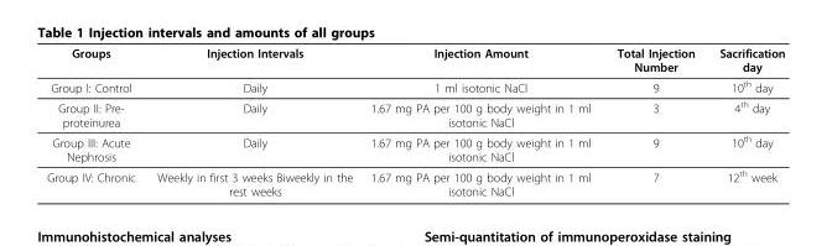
<table><thead><tr><td>Groups</td><td>Injection Intervals</td><td>Injection Amount</td><td>Total Injection Number</td><td>Sacrification day</td></tr></thead><tbody><tr><td>Group I: Control</td><td>Daily</td><td>1 ml isotonic NaCl</td><td>9</td><td>10<sup>th</sup> day</td></tr><tr><td>Group II: Pre- proteinurea</td><td>Daily</td><td>1.67 mg PA per 100 g body weight in 1 ml isotonic NaCl</td><td>3</td><td>4<sup>th</sup> day</td></tr><tr><td>Group III: Acute Nephrosis</td><td>Daily</td><td>1.67 mg PA per 100 g body weight in 1 ml isotonic NaCl</td><td>9</td><td>10<sup>th</sup> day</td></tr><tr><td>Group IV: Chronic</td><td>Weekly in first 3 weeks Biweekly in the rest weeks</td><td>1.67 mg PA per 100 g body weight in 1 ml isotonic NaCl</td><td>7</td><td>12<sup>th</sup> week</td></tr></tbody></table>